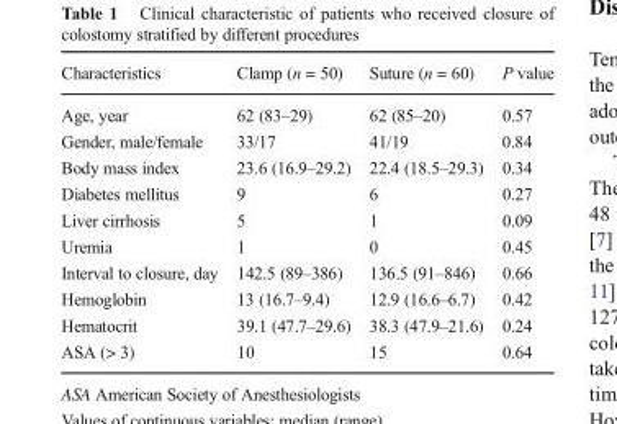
<table><thead><tr><td>Characteristics</td><td>Clamp (n = 50)</td><td>Suture (n = 60)</td><td>P value</td></tr></thead><tbody><tr><td>Age, year</td><td>62 (83–29)</td><td>62 (85–20)</td><td>0.57</td></tr><tr><td>Gender, male/female</td><td>33/17</td><td>41/19</td><td>0.84</td></tr><tr><td>Body mass index</td><td>23.6 (16.9–29.2)</td><td>22.4 (18.5–29.3)</td><td>0.34</td></tr><tr><td>Diabetes mellitus</td><td>9</td><td>6</td><td>0.27</td></tr><tr><td>Liver cirrhosis</td><td>5</td><td>1</td><td>0.09</td></tr><tr><td>Uremia</td><td>1</td><td>0</td><td>0.45</td></tr><tr><td>Interval to closure, day</td><td>142.5 (89–386)</td><td>136.5 (91–846)</td><td>0.66</td></tr><tr><td>Hemoglobin</td><td>13 (16.7–9.4)</td><td>12.9 (16.6–6.7)</td><td>0.42</td></tr><tr><td>Hematocrit</td><td>39.1 (47.7–29.6)</td><td>38.3 (47.9–21.6)</td><td>0.24</td></tr><tr><td>ASA (&gt; 3)</td><td>10</td><td>15</td><td>0.64</td></tr></tbody></table>